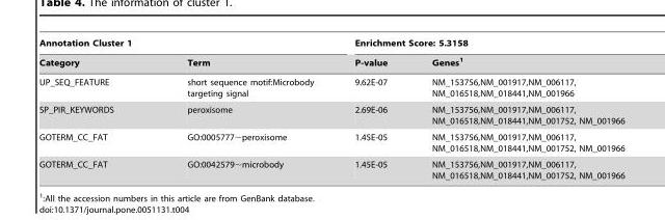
<table><thead><tr><td colspan="2">Annotation Cluster 1</td><td colspan="2">Enrichment Score: 5.3158</td></tr><tr><td>Category</td><td>Term</td><td>P-value</td><td>Genes<sup>1</sup></td></tr></thead><tbody><tr><td>UP_SEQ_FEATURE</td><td>short sequence motif:Microbody targeting signal</td><td>9.62E-07</td><td>NM_153756,NM_001917,NM_006117, NM_016518,NM_018441,NM_001966</td></tr><tr><td>SP_PIR_KEYWORDS</td><td>peroxisome</td><td>2.69E-06</td><td>NM_153756,NM_001917,NM_006117, NM_016518,NM_018441,NM_001752, NM_001966</td></tr><tr><td>GOTERM_CC_FAT</td><td>GO:0005777∼peroxisome</td><td>1.45E-05</td><td>NM_153756,NM_001917,NM_006117, NM_016518,NM_018441,NM_001752, NM_001966</td></tr><tr><td>GOTERM_CC_FAT</td><td>GO:0042579∼microbody</td><td>1.45E-05</td><td>NM_153756,NM_001917,NM_006117, NM_016518,NM_018441,NM_001752, NM_001966</td></tr></tbody></table>